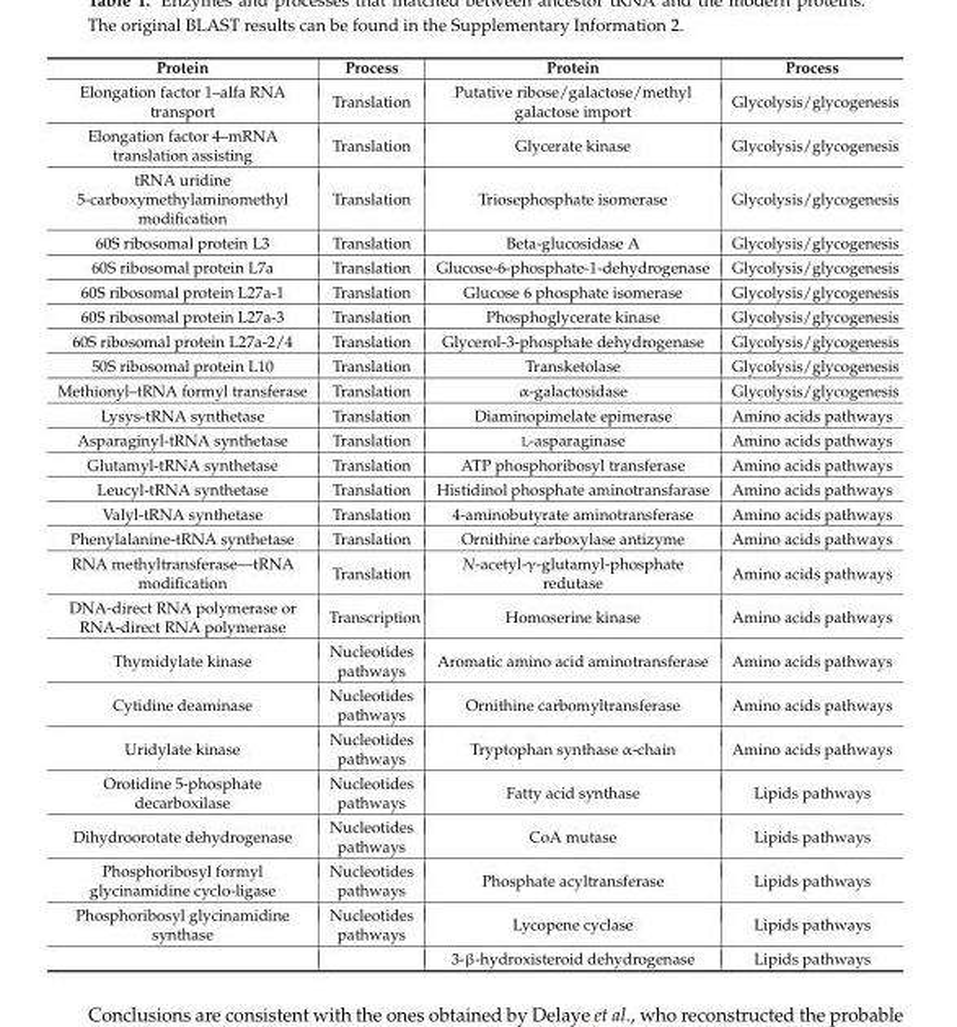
<table><thead><tr><td>Protein</td><td>Process</td><td>Protein</td><td>Process</td></tr></thead><tbody><tr><td>Elongation factor 1–alfa RNA transport</td><td>Translation</td><td>Putative ribose/galactose/methyl galactose import</td><td>Glycolysis/glycogenesis</td></tr><tr><td>Elongation factor 4–mRNA translation assisting</td><td>Translation</td><td>Glycerate kinase</td><td>Glycolysis/glycogenesis</td></tr><tr><td>tRNA uridine 5-carboxymethylaminomethyl modification</td><td>Translation</td><td>Triosephosphate isomerase</td><td>Glycolysis/glycogenesis</td></tr><tr><td>60S ribosomal protein L3</td><td>Translation</td><td>Beta-glucosidase A</td><td>Glycolysis/glycogenesis</td></tr><tr><td>60S ribosomal protein L7a</td><td>Translation</td><td>Glucose-6-phosphate-1-dehydrogenase</td><td>Glycolysis/glycogenesis</td></tr><tr><td>60S ribosomal protein L27a-1</td><td>Translation</td><td>Glucose 6 phosphate isomerase</td><td>Glycolysis/glycogenesis</td></tr><tr><td>60S ribosomal protein L27a-3</td><td>Translation</td><td>Phosphoglycerate kinase</td><td>Glycolysis/glycogenesis</td></tr><tr><td>60S ribosomal protein L27a-2/4</td><td>Translation</td><td>Glycerol-3-phosphate dehydrogenase</td><td>Glycolysis/glycogenesis</td></tr><tr><td>50S ribosomal protein L10</td><td>Translation</td><td>Transketolase</td><td>Glycolysis/glycogenesis</td></tr><tr><td>Methionyl–tRNA formyl transferase</td><td>Translation</td><td>α-galactosidase</td><td>Glycolysis/glycogenesis</td></tr><tr><td>Lysys-tRNA synthetase</td><td>Translation</td><td>Diaminopimelate epimerase</td><td>Amino acids pathways</td></tr><tr><td>Asparaginyl-tRNA synthetase</td><td>Translation</td><td>L-asparaginase</td><td>Amino acids pathways</td></tr><tr><td>Glutamyl-tRNA synthetase</td><td>Translation</td><td>ATP phosphoribosyl transferase</td><td>Amino acids pathways</td></tr><tr><td>Leucyl-tRNA synthetase</td><td>Translation</td><td>Histidinol phosphate aminotransfarase</td><td>Amino acids pathways</td></tr><tr><td>Valyl-tRNA synthetase</td><td>Translation</td><td>4-aminobutyrate aminotransferase</td><td>Amino acids pathways</td></tr><tr><td>Phenylalanine-tRNA synthetase</td><td>Translation</td><td>Ornithine carboxylase antizyme</td><td>Amino acids pathways</td></tr><tr><td>RNA methyltransferase—tRNA modification</td><td>Translation</td><td>N-acetyl-γ-glutamyl-phosphate redutase</td><td>Amino acids pathways</td></tr><tr><td>DNA-direct RNA polymerase or RNA-direct RNA polymerase</td><td>Transcription</td><td>Homoserine kinase</td><td>Amino acids pathways</td></tr><tr><td>Thymidylate kinase</td><td>Nucleotides pathways</td><td>Aromatic amino acid aminotransferase</td><td>Amino acids pathways</td></tr><tr><td>Cytidine deaminase</td><td>Nucleotides pathways</td><td>Ornithine carbomyltransferase</td><td>Amino acids pathways</td></tr><tr><td>Uridylate kinase</td><td>Nucleotides pathways</td><td>Tryptophan synthase α-chain</td><td>Amino acids pathways</td></tr><tr><td>Orotidine 5-phosphate decarboxilase</td><td>Nucleotides pathways</td><td>Fatty acid synthase</td><td>Lipids pathways</td></tr><tr><td>Dihydroorotate dehydrogenase</td><td>Nucleotides pathways</td><td>CoA mutase</td><td>Lipids pathways</td></tr><tr><td>Phosphoribosyl formyl glycinamidine cyclo-ligase</td><td>Nucleotides pathways</td><td>Phosphate acyltransferase</td><td>Lipids pathways</td></tr><tr><td rowspan="2">Phosphoribosyl glycinamidine synthase</td><td>Nucleotides pathways</td><td>Lycopene cyclase</td><td>Lipids pathways</td></tr><tr><td></td><td>3-β-hydroxisteroid dehydrogenase</td><td>Lipids pathways</td></tr></tbody></table>